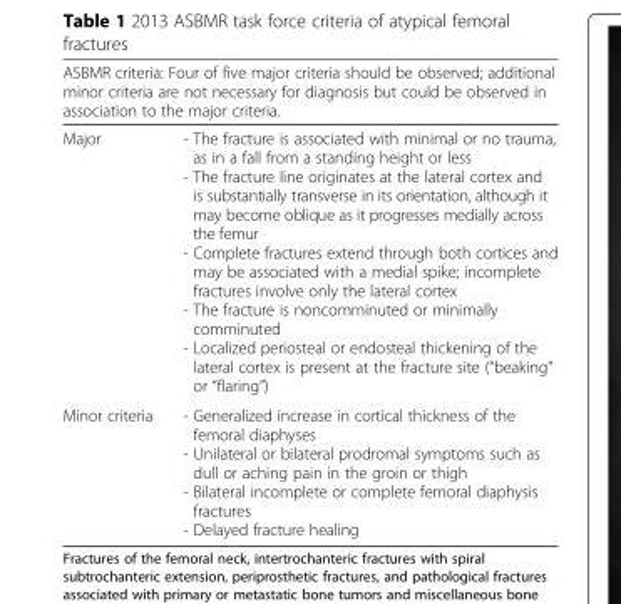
<table><thead><tr><td colspan="2">ASBMR criteria: Four of five major criteria should be observed; additional minor criteria are not necessary for diagnosis but could be observed in association to the major criteria.</td></tr><tr><td>Major</td><td>- The fracture is associated with minimal or no trauma, as in a fall from a standing height or less - The fracture line originates at the lateral cortex and is substantially transverse in its orientation, although it may become oblique as it progresses medially across the femur - Complete fractures extend through both cortices and may be associated with a medial spike; incomplete fractures involve only the lateral cortex - The fracture is noncomminuted or minimally comminuted - Localized periosteal or endosteal thickening of the lateral cortex is present at the fracture site (“beaking” or “flaring”)</td></tr></thead><tbody><tr><td>Minor criteria</td><td>- Generalized increase in cortical thickness of the femoral diaphyses - Unilateral or bilateral prodromal symptoms such as dull or aching pain in the groin or thigh - Bilateral incomplete or complete femoral diaphysis fractures - Delayed fracture healing</td></tr></tbody></table>